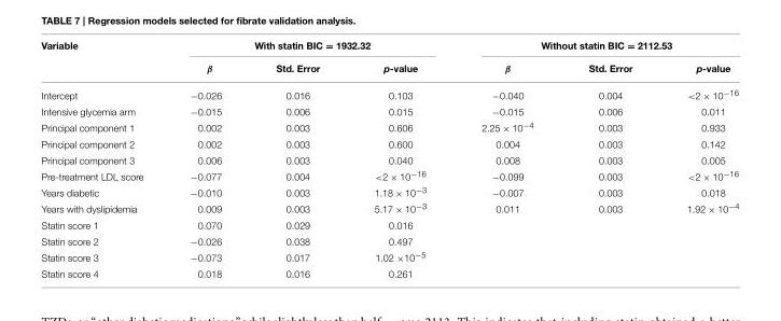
<table><thead><tr><td rowspan="2">Variable</td><td colspan="3">With statin BIC = 1932.32</td><td colspan="3">Without statin BIC = 2112.53</td></tr><tr><td>β</td><td>Std. Error</td><td>p-value</td><td>β</td><td>Std. Error</td><td>p-value</td></tr></thead><tbody><tr><td>Intercept</td><td>−0.026</td><td>0.016</td><td>0.103</td><td>−0.040</td><td>0.004</td><td>&lt;2 × 10<sup>−16</sup></td></tr><tr><td>Intensive glycemia arm</td><td>−0.015</td><td>0.006</td><td>0.015</td><td>−0.015</td><td>0.006</td><td>0.011</td></tr><tr><td>Principal component 1</td><td>0.002</td><td>0.003</td><td>0.606</td><td>2.25 × 10<sup>−4</sup></td><td>0.003</td><td>0.933</td></tr><tr><td>Principal component 2</td><td>0.002</td><td>0.003</td><td>0.600</td><td>0.004</td><td>0.003</td><td>0.142</td></tr><tr><td>Principal component 3</td><td>0.006</td><td>0.003</td><td>0.040</td><td>0.008</td><td>0.003</td><td>0.005</td></tr><tr><td>Pre-treatment LDL score</td><td>−0.077</td><td>0.004</td><td>&lt;2 × 10<sup>−16</sup></td><td>−0.099</td><td>0.003</td><td>&lt;2 × 10<sup>−16</sup></td></tr><tr><td>Years diabetic</td><td>−0.010</td><td>0.003</td><td>1.18 × 10<sup>−3</sup></td><td>−0.007</td><td>0.003</td><td>0.018</td></tr><tr><td>Years with dyslipidemia</td><td>0.009</td><td>0.003</td><td>5.17 × 10<sup>−3</sup></td><td>0.011</td><td>0.003</td><td>1.92 × 10<sup>−4</sup></td></tr><tr><td>Statin score 1</td><td>0.070</td><td>0.029</td><td>0.016</td><td></td><td></td><td></td></tr><tr><td>Statin score 2</td><td>−0.026</td><td>0.038</td><td>0.497</td><td></td><td></td><td></td></tr><tr><td>Statin score 3</td><td>−0.073</td><td>0.017</td><td>1.02 ×10<sup>−5</sup></td><td></td><td></td><td></td></tr><tr><td>Statin score 4</td><td>0.018</td><td>0.016</td><td>0.261</td><td></td><td></td><td></td></tr></tbody></table>